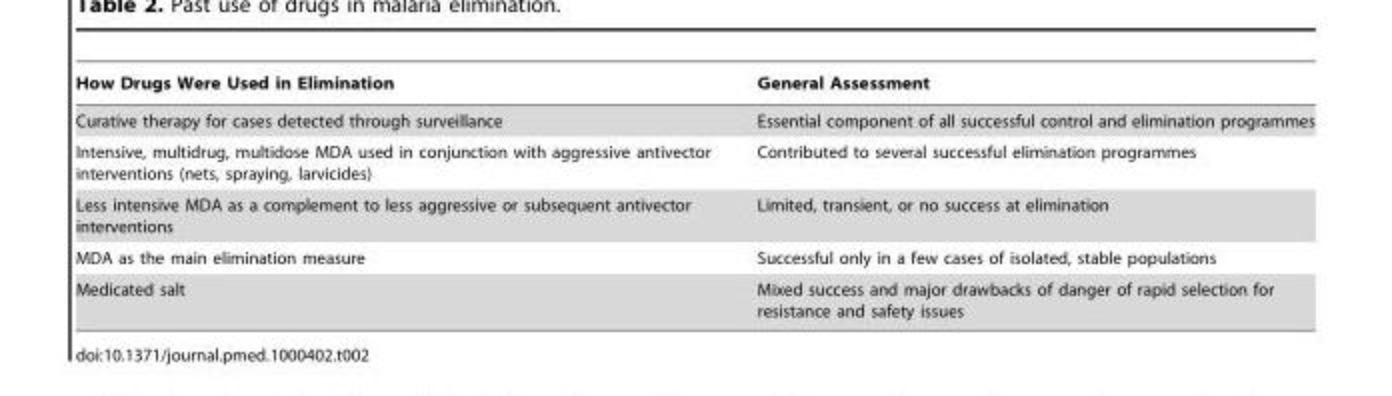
<table><thead><tr><td>How Drugs Were Used in Elimination</td><td>General Assessment</td></tr></thead><tbody><tr><td>Curative therapy for cases detected through surveillance</td><td>Essential component of all successful control and elimination programmes</td></tr><tr><td>Intensive, multidrug, multidose MDA used in conjunction with aggressive antivector interventions (nets, spraying, larvicides)</td><td>Contributed to several successful elimination programmes</td></tr><tr><td>Less intensive MDA as a complement to less aggressive or subsequent antivector interventions</td><td>Limited, transient, or no success at elimination</td></tr><tr><td>MDA as the main elimination measure</td><td>Successful only in a few cases of isolated, stable populations</td></tr><tr><td>Medicated salt</td><td>Mixed success and major drawbacks of danger of rapid selection for resistance and safety issues</td></tr></tbody></table>